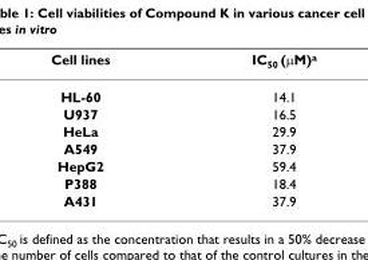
<table><thead><tr><td>Cell lines</td><td>IC<sub>50</sub> (μM)<sup>a</sup></td></tr></thead><tbody><tr><td>HL-60</td><td>14.1</td></tr><tr><td>U937</td><td>16.5</td></tr><tr><td>HeLa</td><td>29.9</td></tr><tr><td>A549</td><td>37.9</td></tr><tr><td>HepG2</td><td>59.4</td></tr><tr><td>P388</td><td>18.4</td></tr><tr><td>A431</td><td>37.9</td></tr></tbody></table>